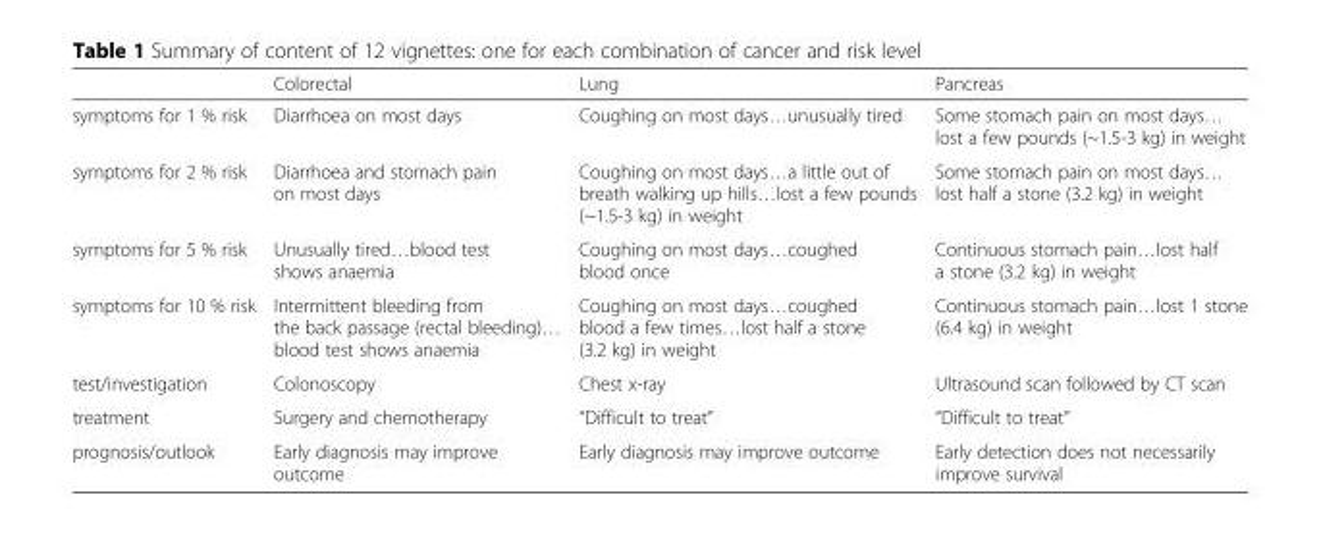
<table><thead><tr><td></td><td>Colorectal</td><td>Lung</td><td>Pancreas</td></tr></thead><tbody><tr><td>symptoms for 1 % risk</td><td>Diarrhoea on most days</td><td>Coughing on most days…unusually tired</td><td>Some stomach pain on most days… lost a few pounds (~1.5-3 kg) in weight</td></tr><tr><td>symptoms for 2 % risk</td><td>Diarrhoea and stomach pain on most days</td><td>Coughing on most days…a little out of breath walking up hills…lost a few pounds (~1.5-3 kg) in weight</td><td>Some stomach pain on most days… lost half a stone (3.2 kg) in weight</td></tr><tr><td>symptoms for 5 % risk</td><td>Unusually tired…blood test shows anaemia</td><td>Coughing on most days…coughed blood once</td><td>Continuous stomach pain…lost half a stone (3.2 kg) in weight</td></tr><tr><td>symptoms for 10 % risk</td><td>Intermittent bleeding from the back passage (rectal bleeding)… blood test shows anaemia</td><td>Coughing on most days…coughed blood a few times…lost half a stone (3.2 kg) in weight</td><td>Continuous stomach pain…lost 1 stone (6.4 kg) in weight</td></tr><tr><td>test/investigation</td><td>Colonoscopy</td><td>Chest x-ray</td><td>Ultrasound scan followed by CT scan</td></tr><tr><td>treatment</td><td>Surgery and chemotherapy</td><td>“Difficult to treat”</td><td>“Difficult to treat”</td></tr><tr><td>prognosis/outlook</td><td>Early diagnosis may improve outcome</td><td>Early diagnosis may improve outcome</td><td>Early detection does not necessarily improve survival</td></tr></tbody></table>